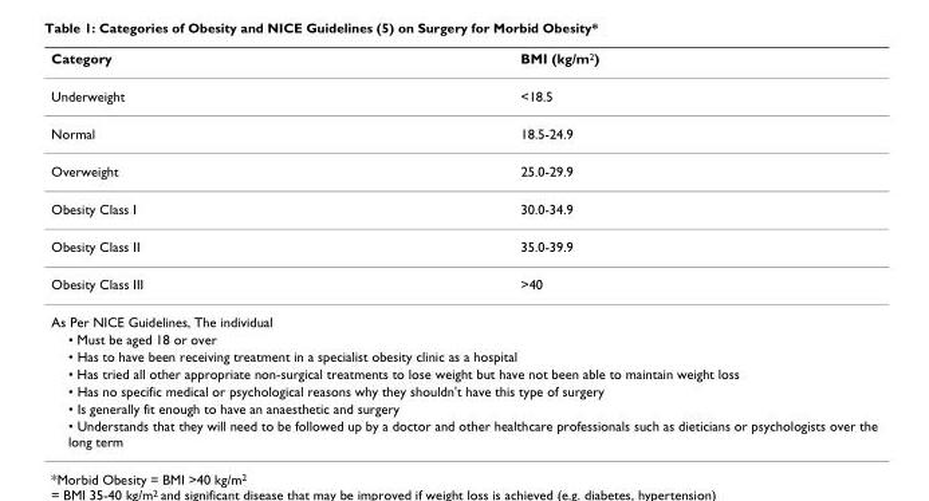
<table><thead><tr><td>Category</td><td>BMI (kg/m<sup>2</sup>)</td></tr></thead><tbody><tr><td>Underweight</td><td>&lt;18.5</td></tr><tr><td>Normal</td><td>18.5-24.9</td></tr><tr><td>Overweight</td><td>25.0-29.9</td></tr><tr><td>Obesity Class I</td><td>30.0-34.9</td></tr><tr><td>Obesity Class II</td><td>35.0-39.9</td></tr><tr><td>Obesity Class III</td><td>&gt;40</td></tr><tr><td colspan="2">As Per NICE Guidelines, The individual</td></tr><tr><td colspan="2">• Must be aged 18 or over</td></tr><tr><td colspan="2">• Has to have been receiving treatment in a specialist obesity clinic as a hospital</td></tr><tr><td colspan="2">• Has tried all other appropriate non-surgical treatments to lose weight but have not been able to maintain weight loss</td></tr><tr><td colspan="2">• Has no specific medical or psychological reasons why they shouldn&#x27;t have this type of surgery</td></tr><tr><td colspan="2">• Is generally fit enough to have an anaesthetic and surgery</td></tr><tr><td colspan="2">• Understands that they will need to be followed up by a doctor and other healthcare professionals such as dieticians or psychologists over the long term</td></tr></tbody></table>